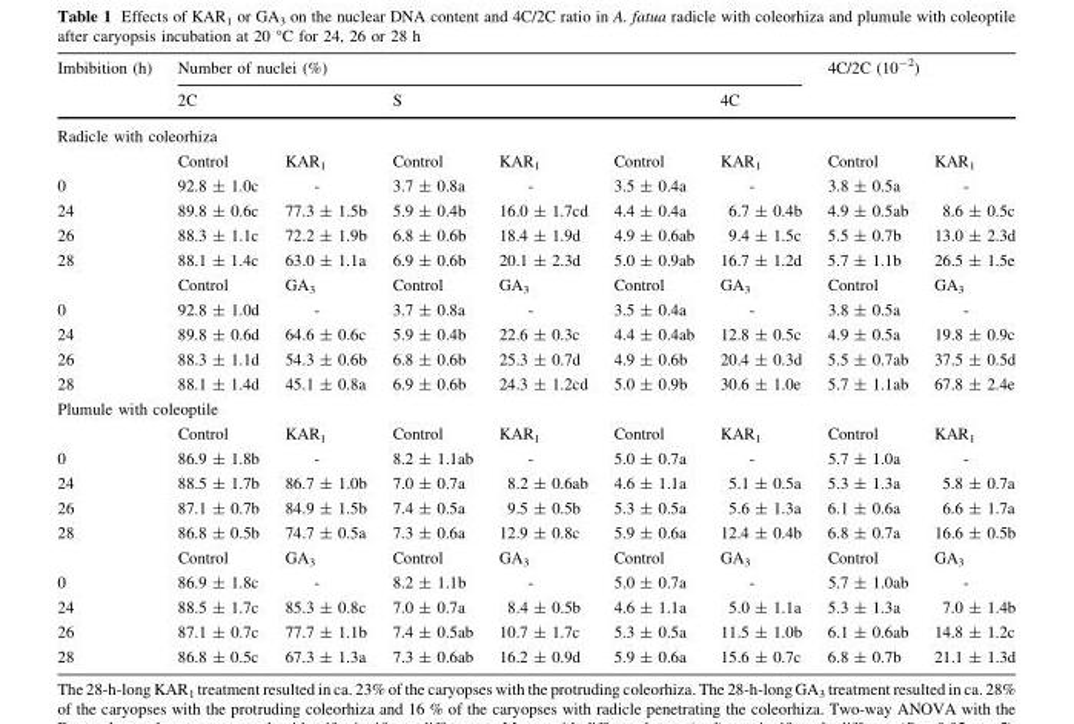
<table><thead><tr><td rowspan="2">Imbibition (h)</td><td colspan="6">Number of nuclei (%)</td><td rowspan="2" colspan="2">4C/2C (10<sup>-2</sup>)</td></tr><tr><td colspan="2">2C</td><td colspan="2">S</td><td></td><td>4C</td></tr><tr><td colspan="9">Radicle with coleorhiza</td></tr><tr><td></td><td>Control</td><td>KAR<sub>1</sub></td><td>Control</td><td>KAR<sub>1</sub></td><td>Control</td><td>KAR<sub>1</sub></td><td>Control</td><td>KAR<sub>1</sub></td></tr></thead><tbody><tr><td>0</td><td>92.8 ± 1.0c</td><td>-</td><td>3.7 ± 0.8a</td><td>-</td><td>3.5 ± 0.4a</td><td>-</td><td>3.8 ± 0.5a</td><td>-</td></tr><tr><td>24</td><td>89.8 ± 0.6c</td><td>77.3 ± 1.5b</td><td>5.9 ± 0.4b</td><td>16.0 ± 1.7cd</td><td>4.4 ± 0.4a</td><td>6.7 ± 0.4b</td><td>4.9 ± 0.5ab</td><td>8.6 ± 0.5c</td></tr><tr><td>26</td><td>88.3 ± 1.1c</td><td>72.2 ± 1.9b</td><td>6.8 ± 0.6b</td><td>18.4 ± 1.9d</td><td>4.9 ± 0.6ab</td><td>9.4 ± 1.5c</td><td>5.5 ± 0.7b</td><td>13.0 ± 2.3d</td></tr><tr><td rowspan="2">28</td><td>88.1 ± 1.4c</td><td>63.0 ± 1.1a</td><td>6.9 ± 0.6b</td><td>20.1 ± 2.3d</td><td>5.0 ± 0.9ab</td><td>16.7 ± 1.2d</td><td>5.7 ± 1.1b</td><td>26.5 ± 1.5e</td></tr><tr><td>Control</td><td>GA<sub>3</sub></td><td>Control</td><td>GA<sub>3</sub></td><td>Control</td><td>GA<sub>3</sub></td><td>Control</td><td>GA<sub>3</sub></td></tr><tr><td>0</td><td>92.8 ± 1.0d</td><td>-</td><td>3.7 ± 0.8a</td><td>-</td><td>3.5 ± 0.4a</td><td>-</td><td>3.8 ± 0.5a</td><td>-</td></tr><tr><td>24</td><td>89.8 ± 0.6d</td><td>64.6 ± 0.6c</td><td>5.9 ± 0.4b</td><td>22.6 ± 0.3c</td><td>4.4 ± 0.4ab</td><td>12.8 ± 0.5c</td><td>4.9 ± 0.5a</td><td>19.8 ± 0.9c</td></tr><tr><td>26</td><td>88.3 ± 1.1d</td><td>54.3 ± 0.6b</td><td>6.8 ± 0.6b</td><td>25.3 ± 0.7d</td><td>4.9 ± 0.6b</td><td>20.4 ± 0.3d</td><td>5.5 ± 0.7ab</td><td>37.5 ± 0.5d</td></tr><tr><td>28</td><td>88.1 ± 1.4d</td><td>45.1 ± 0.8a</td><td>6.9 ± 0.6b</td><td>24.3 ± 1.2cd</td><td>5.0 ± 0.9b</td><td>30.6 ± 1.0e</td><td>5.7 ± 1.1ab</td><td>67.8 ± 2.4e</td></tr><tr><td colspan="9">Plumule with coleoptile</td></tr><tr><td></td><td>Control</td><td>KAR<sub>1</sub></td><td>Control</td><td>KAR<sub>1</sub></td><td>Control</td><td>KAR<sub>1</sub></td><td>Control</td><td>KAR<sub>1</sub></td></tr><tr><td>0</td><td>86.9 ± 1.8b</td><td>-</td><td>8.2 ± 1.1ab</td><td>-</td><td>5.0 ± 0.7a</td><td>-</td><td>5.7 ± 1.0a</td><td>-</td></tr><tr><td>24</td><td>88.5 ± 1.7b</td><td>86.7 ± 1.0b</td><td>7.0 ± 0.7a</td><td>8.2 ± 0.6ab</td><td>4.6 ± 1.1a</td><td>5.1 ± 0.5a</td><td>5.3 ± 1.3a</td><td>5.8 ± 0.7a</td></tr><tr><td>26</td><td>87.1 ± 0.7b</td><td>84.9 ± 1.5b</td><td>7.4 ± 0.5a</td><td>9.5 ± 0.5b</td><td>5.3 ± 0.5a</td><td>5.6 ± 1.3a</td><td>6.1 ± 0.6a</td><td>6.6 ± 1.7a</td></tr><tr><td rowspan="2">28</td><td>86.8 ± 0.5b</td><td>74.7 ± 0.5a</td><td>7.3 ± 0.6a</td><td>12.9 ± 0.8c</td><td>5.9 ± 0.6a</td><td>12.4 ± 0.4b</td><td>6.8 ± 0.7a</td><td>16.6 ± 0.5b</td></tr><tr><td>Control</td><td>GA<sub>3</sub></td><td>Control</td><td>GA<sub>3</sub></td><td>Control</td><td>GA<sub>3</sub></td><td>Control</td><td>GA<sub>3</sub></td></tr><tr><td>0</td><td>86.9 ± 1.8c</td><td>-</td><td>8.2 ± 1.1b</td><td>-</td><td>5.0 ± 0.7a</td><td>-</td><td>5.7 ± 1.0ab</td><td>-</td></tr><tr><td>24</td><td>88.5 ± 1.7c</td><td>85.3 ± 0.8c</td><td>7.0 ± 0.7a</td><td>8.4 ± 0.5b</td><td>4.6 ± 1.1a</td><td>5.0 ± 1.1a</td><td>5.3 ± 1.3a</td><td>7.0 ± 1.4b</td></tr><tr><td>26</td><td>87.1 ± 0.7c</td><td>77.7 ± 1.1b</td><td>7.4 ± 0.5ab</td><td>10.7 ± 1.7c</td><td>5.3 ± 0.5a</td><td>11.5 ± 1.0b</td><td>6.1 ± 0.6ab</td><td>14.8 ± 1.2c</td></tr><tr><td>28</td><td>86.8 ± 0.5c</td><td>67.3 ± 1.3a</td><td>7.3 ± 0.6ab</td><td>16.2 ± 0.9d</td><td>5.9 ± 0.6a</td><td>15.6 ± 0.7c</td><td>6.8 ± 0.7b</td><td>21.1 ± 1.3d</td></tr></tbody></table>